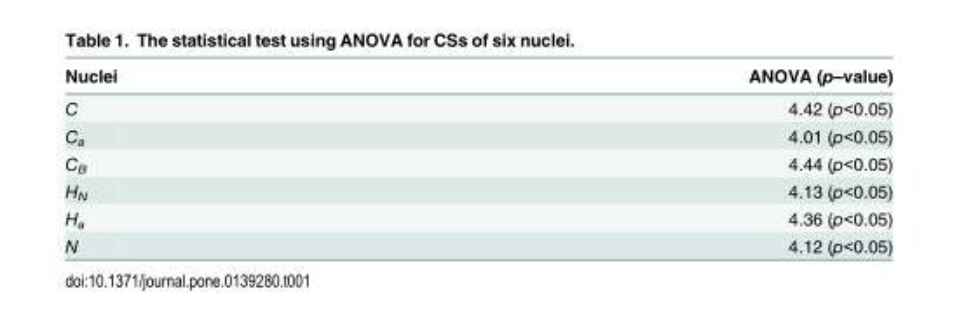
<table><thead><tr><td>Nuclei</td><td>ANOVA (p–value)</td></tr></thead><tbody><tr><td>C</td><td>4.42 (p&lt;0.05)</td></tr><tr><td>C<sub>a</sub></td><td>4.01 (p&lt;0.05)</td></tr><tr><td>C<sub>B</sub></td><td>4.44 (p&lt;0.05)</td></tr><tr><td>H<sub>N</sub></td><td>4.13 (p&lt;0.05)</td></tr><tr><td>H<sub>a</sub></td><td>4.36 (p&lt;0.05)</td></tr><tr><td>N</td><td>4.12 (p&lt;0.05)</td></tr></tbody></table>